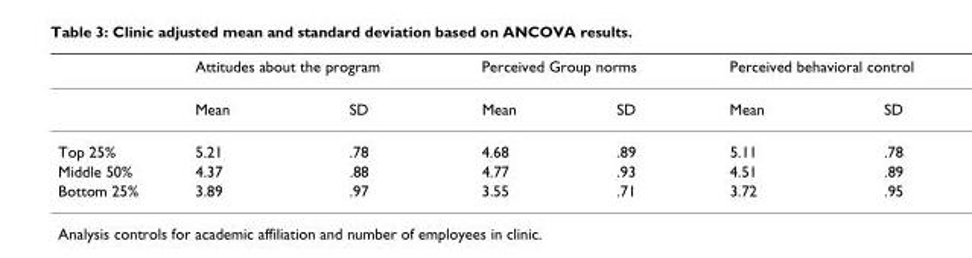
<table><thead><tr><td rowspan="2"></td><td colspan="2">Attitudes about the program</td><td colspan="2">Perceived Group norms</td><td colspan="2">Perceived behavioral control</td></tr><tr><td>Mean</td><td>SD</td><td>Mean</td><td>SD</td><td>Mean</td><td>SD</td></tr></thead><tbody><tr><td>Top 25%</td><td>5.21</td><td>.78</td><td>4.68</td><td>.89</td><td>5.11</td><td>.78</td></tr><tr><td>Middle 50%</td><td>4.37</td><td>.88</td><td>4.77</td><td>.93</td><td>4.51</td><td>.89</td></tr><tr><td>Bottom 25%</td><td>3.89</td><td>.97</td><td>3.55</td><td>.71</td><td>3.72</td><td>.95</td></tr></tbody></table>